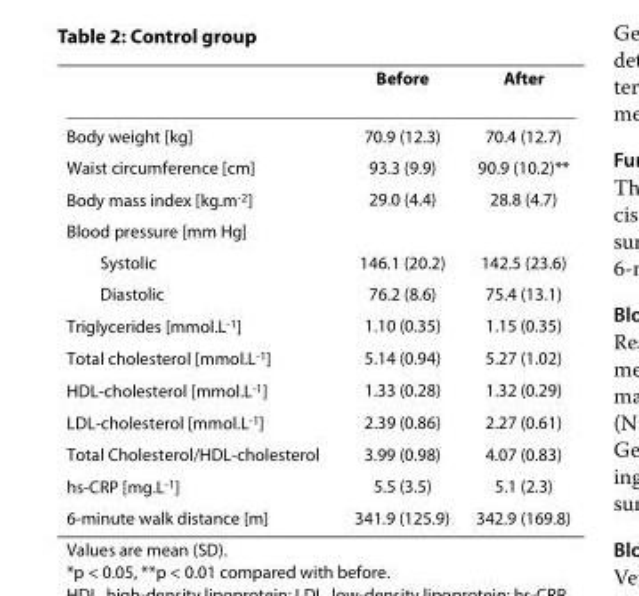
<table><thead><tr><td></td><td>Before</td><td>After</td></tr></thead><tbody><tr><td>Body weight [kg]</td><td>70.9 (12.3)</td><td>70.4 (12.7)</td></tr><tr><td>Waist circumference [cm]</td><td>93.3 (9.9)</td><td>90.9 (10.2)**</td></tr><tr><td>Body mass index [kg.m<sup>-2</sup>]</td><td>29.0 (4.4)</td><td>28.8 (4.7)</td></tr><tr><td colspan="3">Blood pressure [mm Hg]</td></tr><tr><td>Systolic</td><td>146.1 (20.2)</td><td>142.5 (23.6)</td></tr><tr><td>Diastolic</td><td>76.2 (8.6)</td><td>75.4 (13.1)</td></tr><tr><td>Triglycerides [mmol.L<sup>-1</sup>]</td><td>1.10 (0.35)</td><td>1.15 (0.35)</td></tr><tr><td>Total cholesterol [mmol.L<sup>-1</sup>]</td><td>5.14 (0.94)</td><td>5.27 (1.02)</td></tr><tr><td>HDL-cholesterol [mmol.L<sup>-1</sup>]</td><td>1.33 (0.28)</td><td>1.32 (0.29)</td></tr><tr><td>LDL-cholesterol [mmol.L<sup>-1</sup>]</td><td>2.39 (0.86)</td><td>2.27 (0.61)</td></tr><tr><td>Total Cholesterol/HDL-cholesterol</td><td>3.99 (0.98)</td><td>4.07 (0.83)</td></tr><tr><td>hs-CRP [mg.L<sup>-1</sup>]</td><td>5.5 (3.5)</td><td>5.1 (2.3)</td></tr><tr><td>6-minute walk distance [m]</td><td>341.9 (125.9)</td><td>342.9 (169.8)</td></tr></tbody></table>